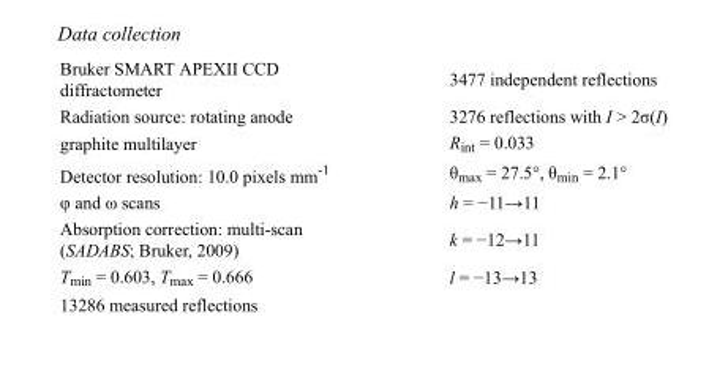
<table><tbody><tr><td>Bruker SMART APEXII CCD diffractometer</td><td>3477 independent reflections</td></tr><tr><td>Radiation source: rotating anode</td><td>3276 reflections with I &gt; 2σ(I)</td></tr><tr><td>graphite multilayer</td><td>R<sub>int</sub> = 0.033</td></tr><tr><td>Detector resolution: 10.0 pixels mm<sup>-1</sup></td><td>θ<sub>max</sub> = 27.5°, θ<sub>min</sub> = 2.1°</td></tr><tr><td>φ and ω scans</td><td>h = −11→11</td></tr><tr><td>Absorption correction: multi-scan (SADABS; Bruker, 2009)</td><td>k = −12→11</td></tr><tr><td>T<sub>min</sub> = 0.603, T<sub>max</sub> = 0.666</td><td>l = −13→13</td></tr><tr><td>13286 measured reflections</td><td></td></tr></tbody></table>